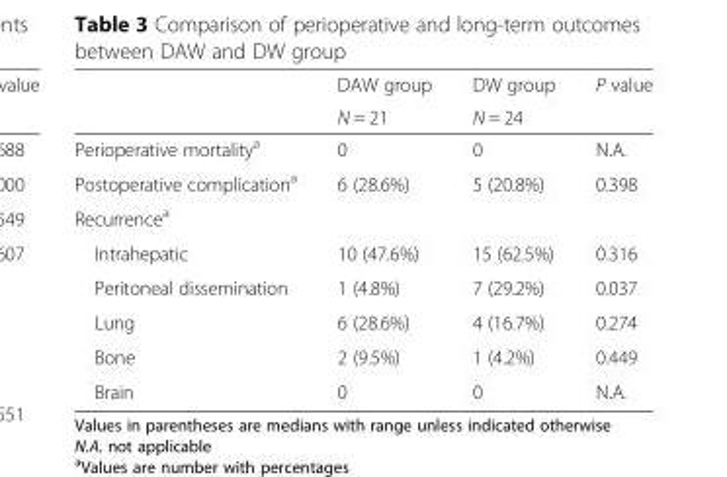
<table><thead><tr><td rowspan="2"></td><td rowspan="2">DAW group N = 21</td><td rowspan="2">DW group N = 24</td><td rowspan="2">P value</td></tr><tr></tr></thead><tbody><tr><td>Perioperative mortality<sup>a</sup></td><td>0</td><td>0</td><td>N.A.</td></tr><tr><td>Postoperative complication<sup>a</sup></td><td>6 (28.6%)</td><td>5 (20.8%)</td><td>0.398</td></tr><tr><td colspan="4">Recurrence<sup>a</sup></td></tr><tr><td>Intrahepatic</td><td>10 (47.6%)</td><td>15 (62.5%)</td><td>0.316</td></tr><tr><td>Peritoneal dissemination</td><td>1 (4.8%)</td><td>7 (29.2%)</td><td>0.037</td></tr><tr><td>Lung</td><td>6 (28.6%)</td><td>4 (16.7%)</td><td>0.274</td></tr><tr><td>Bone</td><td>2 (9.5%)</td><td>1 (4.2%)</td><td>0.449</td></tr><tr><td>Brain</td><td>0</td><td>0</td><td>N.A.</td></tr></tbody></table>